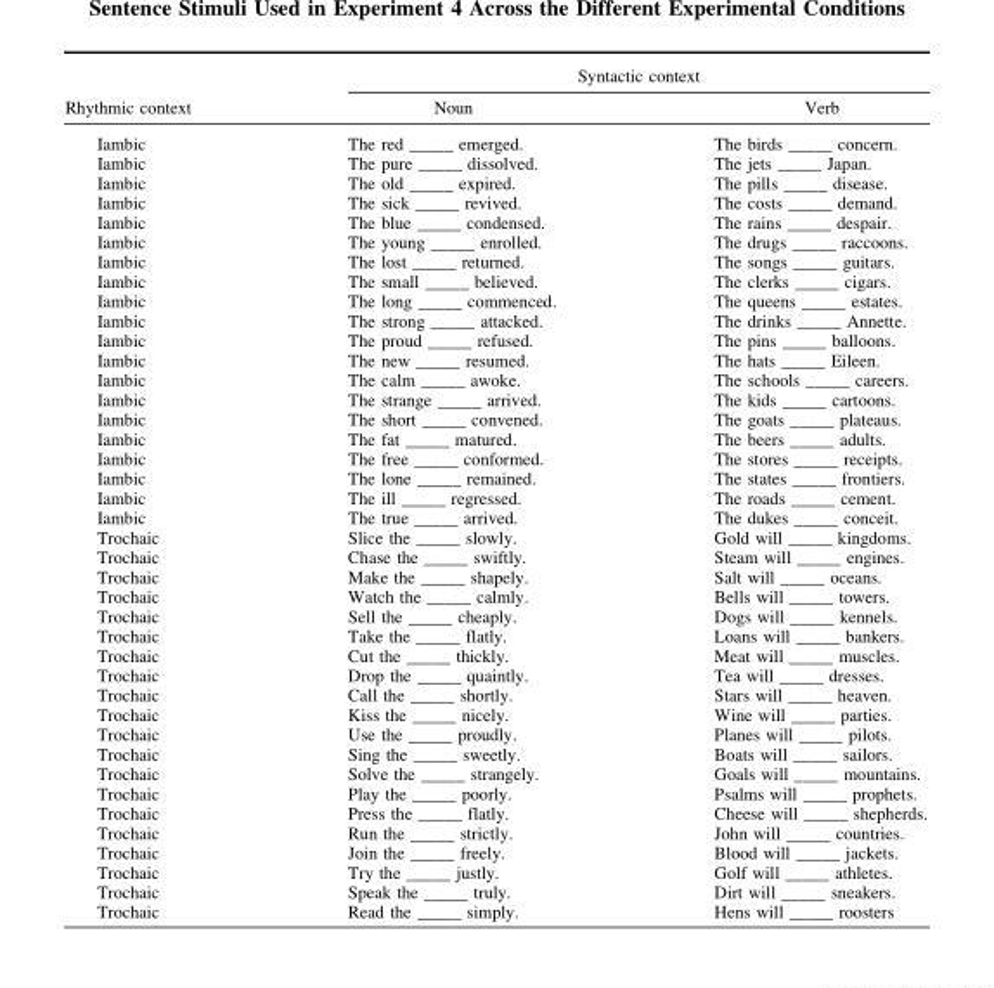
<table><thead><tr><td rowspan="2">Rhythmic context</td><td colspan="2">Syntactic context</td></tr><tr><td>Noun</td><td>Verb</td></tr></thead><tbody><tr><td>Iambic</td><td>The red _____ emerged.</td><td>The birds _____ concern.</td></tr><tr><td>Iambic</td><td>The pure _____ dissolved.</td><td>The jets _____ Japan.</td></tr><tr><td>Iambic</td><td>The old _____ expired.</td><td>The pills _____ disease.</td></tr><tr><td>Iambic</td><td>The sick _____ revived.</td><td>The costs _____ demand.</td></tr><tr><td>Iambic</td><td>The blue _____ condensed.</td><td>The rains _____ despair.</td></tr><tr><td>Iambic</td><td>The young _____ enrolled.</td><td>The drugs _____ raccoons.</td></tr><tr><td>Iambic</td><td>The lost _____ returned.</td><td>The songs _____ guitars.</td></tr><tr><td>Iambic</td><td>The small _____ believed.</td><td>The clerks _____ cigars.</td></tr><tr><td>Iambic</td><td>The long _____ commenced.</td><td>The queens _____ estates.</td></tr><tr><td>Iambic</td><td>The strong _____ attacked.</td><td>The drinks _____ Annette.</td></tr><tr><td>Iambic</td><td>The proud _____ refused.</td><td>The pins _____ balloons.</td></tr><tr><td>Iambic</td><td>The new _____ resumed.</td><td>The hats _____ Eileen.</td></tr><tr><td>Iambic</td><td>The calm _____ awoke.</td><td>The schools _____ careers.</td></tr><tr><td>Iambic</td><td>The strange _____ arrived.</td><td>The kids _____ cartoons.</td></tr><tr><td>Iambic</td><td>The short _____ convened.</td><td>The goats _____ plateaus.</td></tr><tr><td>Iambic</td><td>The fat _____ matured.</td><td>The beers _____ adults.</td></tr><tr><td>Iambic</td><td>The free _____ conformed.</td><td>The stores _____ receipts.</td></tr><tr><td>Iambic</td><td>The lone _____ remained.</td><td>The states _____ frontiers.</td></tr><tr><td>Iambic</td><td>The ill _____ regressed.</td><td>The roads _____ cement.</td></tr><tr><td>Iambic</td><td>The true _____ arrived.</td><td>The dukes _____ conceit.</td></tr><tr><td>Trochaic</td><td>Slice the _____ slowly.</td><td>Gold will _____ kingdoms.</td></tr><tr><td>Trochaic</td><td>Chase the _____ swiftly.</td><td>Steam will _____ engines.</td></tr><tr><td>Trochaic</td><td>Make the _____ shapely.</td><td>Salt will _____ oceans.</td></tr><tr><td>Trochaic</td><td>Watch the _____ calmly.</td><td>Bells will _____ towers.</td></tr><tr><td>Trochaic</td><td>Sell the _____ cheaply.</td><td>Dogs will _____ kennels.</td></tr><tr><td>Trochaic</td><td>Take the _____ flatly.</td><td>Loans will _____ bankers.</td></tr><tr><td>Trochaic</td><td>Cut the _____ thickly.</td><td>Meat will _____ muscles.</td></tr><tr><td>Trochaic</td><td>Drop the _____ quaintly.</td><td>Tea will _____ dresses.</td></tr><tr><td>Trochaic</td><td>Call the _____ shortly.</td><td>Stars will _____ heaven.</td></tr><tr><td>Trochaic</td><td>Kiss the _____ nicely.</td><td>Wine will _____ parties.</td></tr><tr><td>Trochaic</td><td>Use the _____ proudly.</td><td>Planes will _____ pilots.</td></tr><tr><td>Trochaic</td><td>Sing the _____ sweetly.</td><td>Boats will _____ sailors.</td></tr><tr><td>Trochaic</td><td>Solve the _____ strangely.</td><td>Goals will _____ mountains.</td></tr><tr><td>Trochaic</td><td>Play the _____ poorly.</td><td>Psalms will _____ prophets.</td></tr><tr><td>Trochaic</td><td>Press the _____ flatly.</td><td>Cheese will _____ shepherds.</td></tr><tr><td>Trochaic</td><td>Run the _____ strictly.</td><td>John will _____ countries.</td></tr><tr><td>Trochaic</td><td>Join the _____ freely.</td><td>Blood will _____ jackets.</td></tr><tr><td>Trochaic</td><td>Try the _____ justly.</td><td>Golf will _____ athletes.</td></tr><tr><td>Trochaic</td><td>Speak the _____ truly.</td><td>Dirt will _____ sneakers.</td></tr><tr><td>Trochaic</td><td>Read the _____ simply.</td><td>Hens will _____ roosters</td></tr></tbody></table>